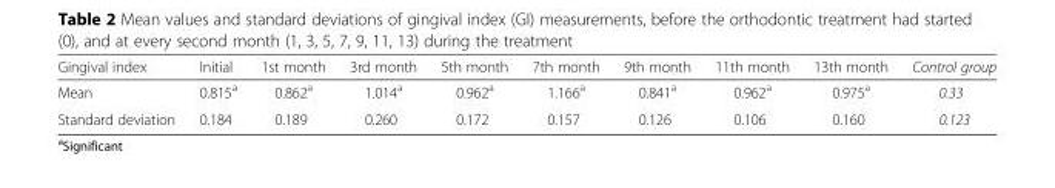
<table><thead><tr><td>Gingival index</td><td>Initial</td><td>1st month</td><td>3rd month</td><td>5th month</td><td>7th month</td><td>9th month</td><td>11th month</td><td>13th month</td><td>Control group</td></tr></thead><tbody><tr><td>Mean</td><td>0.815<sup>a</sup></td><td>0.862<sup>a</sup></td><td>1.014<sup>a</sup></td><td>0.962<sup>a</sup></td><td>1.166<sup>a</sup></td><td>0.841<sup>a</sup></td><td>0.962<sup>a</sup></td><td>0.975<sup>a</sup></td><td>0.33</td></tr><tr><td>Standard deviation</td><td>0.184</td><td>0.189</td><td>0.260</td><td>0.172</td><td>0.157</td><td>0.126</td><td>0.106</td><td>0.160</td><td>0.123</td></tr></tbody></table>